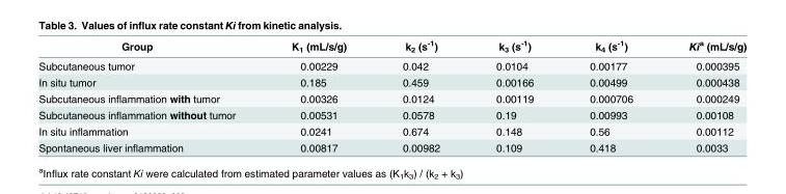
<table><thead><tr><td>Group</td><td>K<sub>1</sub> (mL/s/g)</td><td>k<sub>2</sub> (s<sup>-1</sup>)</td><td>k<sub>3</sub> (s<sup>-1</sup>)</td><td>k<sub>4</sub> (s<sup>-1</sup>)</td><td>Ki<sup>a</sup> (mL/s/g)</td></tr></thead><tbody><tr><td>Subcutaneous tumor</td><td>0.00229</td><td>0.042</td><td>0.0104</td><td>0.00177</td><td>0.000395</td></tr><tr><td>In situ tumor</td><td>0.185</td><td>0.459</td><td>0.00166</td><td>0.00499</td><td>0.000438</td></tr><tr><td>Subcutaneous inflammation with tumor</td><td>0.00326</td><td>0.0124</td><td>0.00119</td><td>0.000706</td><td>0.000249</td></tr><tr><td>Subcutaneous inflammation without tumor</td><td>0.00531</td><td>0.0578</td><td>0.19</td><td>0.00993</td><td>0.00108</td></tr><tr><td>In situ inflammation</td><td>0.0241</td><td>0.674</td><td>0.148</td><td>0.56</td><td>0.00112</td></tr><tr><td>Spontaneous liver inflammation</td><td>0.00817</td><td>0.00982</td><td>0.109</td><td>0.418</td><td>0.0033</td></tr></tbody></table>